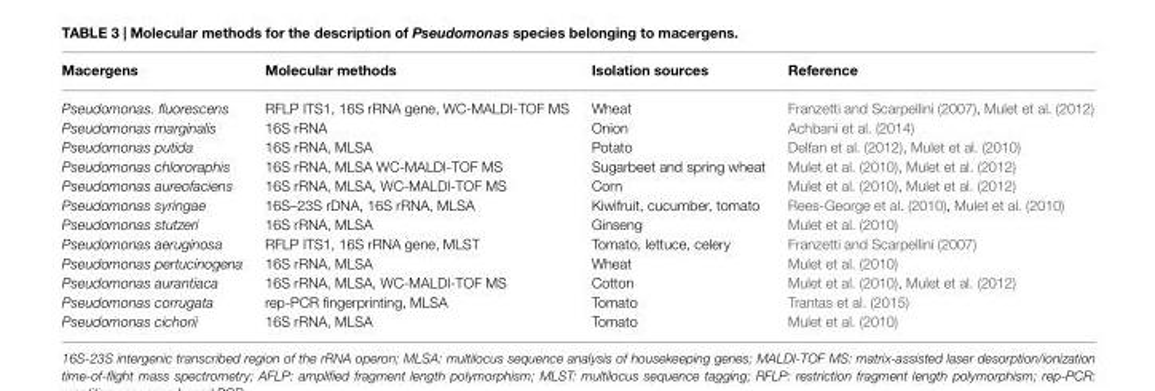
<table><thead><tr><td>Macergens</td><td>Molecular methods</td><td>Isolation sources</td><td>Reference</td></tr></thead><tbody><tr><td>Pseudomonas. fluorescens</td><td>RFLP ITS1, 16S rRNA gene, WC-MALDI-TOF MS</td><td>Wheat</td><td>Franzetti and Scarpellini (2007), Mulet et al. (2012)</td></tr><tr><td>Pseudomonas marginalis</td><td>16S rRNA</td><td>Onion</td><td>Achbani et al. (2014)</td></tr><tr><td>Pseudomonas putida</td><td>16S rRNA, MLSA</td><td>Potato</td><td>Delfan et al. (2012), Mulet et al. (2010)</td></tr><tr><td>Pseudomonas chlororaphis</td><td>16S rRNA, MLSA WC-MALDI-TOF MS</td><td>Sugarbeet and spring wheat</td><td>Mulet et al. (2010), Mulet et al. (2012)</td></tr><tr><td>Pseudomonas aureofaciens</td><td>16S rRNA, MLSA, WC-MALDI-TOF MS</td><td>Corn</td><td>Mulet et al. (2010), Mulet et al. (2012)</td></tr><tr><td>Pseudomonas syringae</td><td>16S–23S rDNA, 16S rRNA, MLSA</td><td>Kiwifruit, cucumber, tomato</td><td>Rees-George et al. (2010), Mulet et al. (2010)</td></tr><tr><td>Pseudomonas stutzeri</td><td>16S rRNA, MLSA</td><td>Ginseng</td><td>Mulet et al. (2010)</td></tr><tr><td>Pseudomonas aeruginosa</td><td>RFLP ITS1, 16S rRNA gene, MLST</td><td>Tomato, lettuce, celery</td><td>Franzetti and Scarpellini (2007)</td></tr><tr><td>Pseudomonas pertucinogena</td><td>16S rRNA, MLSA</td><td>Wheat</td><td>Mulet et al. (2010)</td></tr><tr><td>Pseudomonas aurantiaca</td><td>16S rRNA, MLSA, WC-MALDI-TOF MS</td><td>Cotton</td><td>Mulet et al. (2010), Mulet et al. (2012)</td></tr><tr><td>Pseudomonas corrugata</td><td>rep-PCR fingerprinting, MLSA</td><td>Tomato</td><td>Trantas et al. (2015)</td></tr><tr><td>Pseudomonas cichorii</td><td>16S rRNA, MLSA</td><td>Tomato</td><td>Mulet et al. (2010)</td></tr></tbody></table>